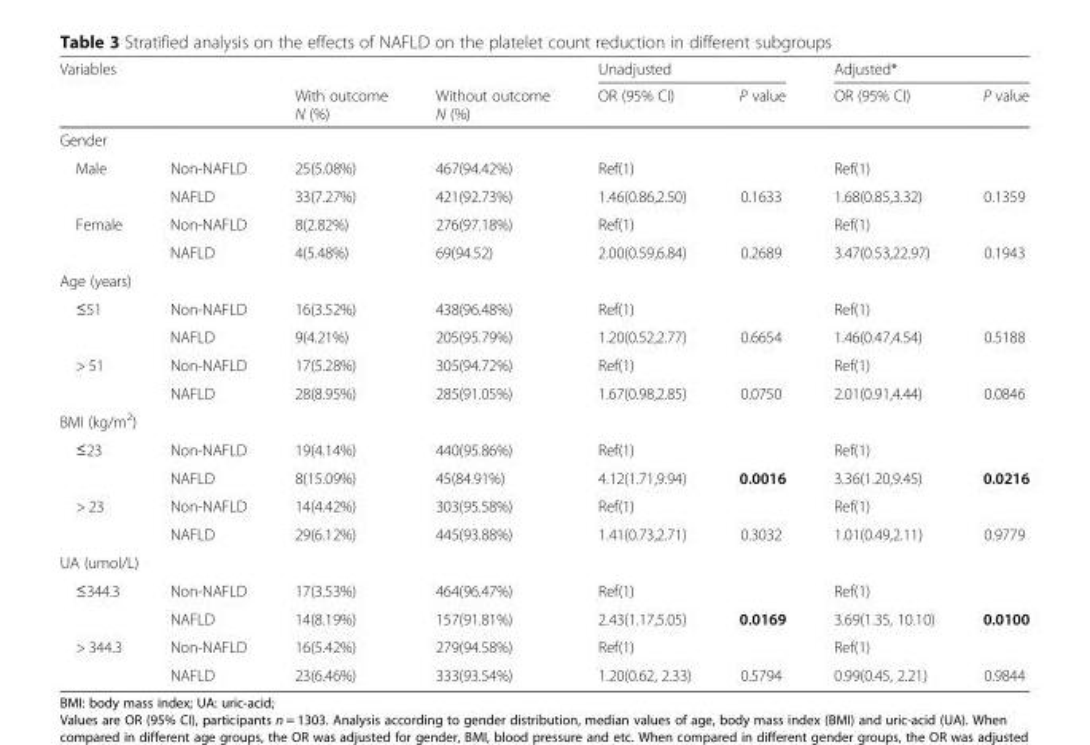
<table><thead><tr><td rowspan="2">Variables</td><td rowspan="2"></td><td rowspan="2">With outcome N (%)</td><td rowspan="2">Without outcome N (%)</td><td colspan="2">Unadjusted</td><td colspan="2">Adjusted*</td></tr><tr><td>OR (95% CI)</td><td>P value</td><td>OR (95% CI)</td><td>P value</td></tr></thead><tbody><tr><td colspan="8">Gender</td></tr><tr><td rowspan="2">Male</td><td>Non-NAFLD</td><td>25(5.08%)</td><td>467(94.42%)</td><td>Ref(1)</td><td></td><td>Ref(1)</td><td></td></tr><tr><td>NAFLD</td><td>33(7.27%)</td><td>421(92.73%)</td><td>1.46(0.86,2.50)</td><td>0.1633</td><td>1.68(0.85,3.32)</td><td>0.1359</td></tr><tr><td rowspan="2">Female</td><td>Non-NAFLD</td><td>8(2.82%)</td><td>276(97.18%)</td><td>Ref(1)</td><td></td><td>Ref(1)</td><td></td></tr><tr><td>NAFLD</td><td>4(5.48%)</td><td>69(94.52)</td><td>2.00(0.59,6.84)</td><td>0.2689</td><td>3.47(0.53,22.97)</td><td>0.1943</td></tr><tr><td colspan="8">Age (years)</td></tr><tr><td rowspan="2">≤51</td><td>Non-NAFLD</td><td>16(3.52%)</td><td>438(96.48%)</td><td>Ref(1)</td><td></td><td>Ref(1)</td><td></td></tr><tr><td>NAFLD</td><td>9(4.21%)</td><td>205(95.79%)</td><td>1.20(0.52,2.77)</td><td>0.6654</td><td>1.46(0.47,4.54)</td><td>0.5188</td></tr><tr><td rowspan="2">&gt; 51</td><td>Non-NAFLD</td><td>17(5.28%)</td><td>305(94.72%)</td><td>Ref(1)</td><td></td><td>Ref(1)</td><td></td></tr><tr><td>NAFLD</td><td>28(8.95%)</td><td>285(91.05%)</td><td>1.67(0.98,2.85)</td><td>0.0750</td><td>2.01(0.91,4.44)</td><td>0.0846</td></tr><tr><td colspan="8">BMI (kg/m<sup>2</sup>)</td></tr><tr><td rowspan="2">≤23</td><td>Non-NAFLD</td><td>19(4.14%)</td><td>440(95.86%)</td><td>Ref(1)</td><td></td><td>Ref(1)</td><td></td></tr><tr><td>NAFLD</td><td>8(15.09%)</td><td>45(84.91%)</td><td>4.12(1.71,9.94)</td><td>0.0016</td><td>3.36(1.20,9.45)</td><td>0.0216</td></tr><tr><td rowspan="2">&gt; 23</td><td>Non-NAFLD</td><td>14(4.42%)</td><td>303(95.58%)</td><td>Ref(1)</td><td></td><td>Ref(1)</td><td></td></tr><tr><td>NAFLD</td><td>29(6.12%)</td><td>445(93.88%)</td><td>1.41(0.73,2.71)</td><td>0.3032</td><td>1.01(0.49,2.11)</td><td>0.9779</td></tr><tr><td colspan="8">UA (umol/L)</td></tr><tr><td rowspan="2">≤344.3</td><td>Non-NAFLD</td><td>17(3.53%)</td><td>464(96.47%)</td><td>Ref(1)</td><td></td><td>Ref(1)</td><td></td></tr><tr><td>NAFLD</td><td>14(8.19%)</td><td>157(91.81%)</td><td>2.43(1.17,5.05)</td><td>0.0169</td><td>3.69(1.35, 10.10)</td><td>0.0100</td></tr><tr><td rowspan="2">&gt; 344.3</td><td>Non-NAFLD</td><td>16(5.42%)</td><td>279(94.58%)</td><td>Ref(1)</td><td></td><td>Ref(1)</td><td></td></tr><tr><td>NAFLD</td><td>23(6.46%)</td><td>333(93.54%)</td><td>1.20(0.62, 2.33)</td><td>0.5794</td><td>0.99(0.45, 2.21)</td><td>0.9844</td></tr></tbody></table>